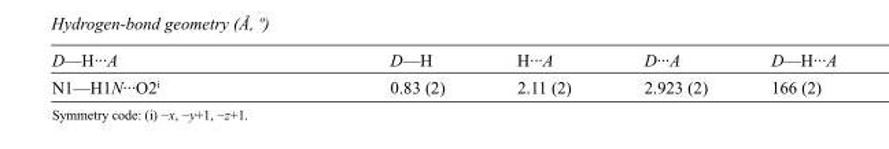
<table><tbody><tr><td>D—H···A</td><td>D—H</td><td>H···A</td><td>D···A</td><td>D—H···A</td></tr><tr><td>N1—H1N···O2<sup>i</sup></td><td>0.83 (2)</td><td>2.11 (2)</td><td>2.923 (2)</td><td>166 (2)</td></tr></tbody></table>